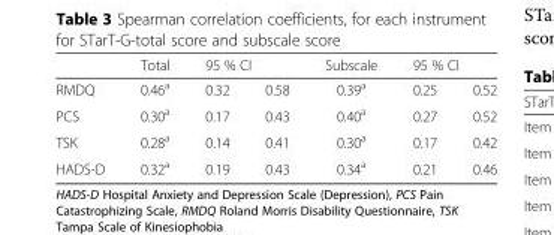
<table><thead><tr><td rowspan="2">RMDQ</td><td rowspan="2">Total 0.46<sup>a</sup></td><td colspan="2">95 % CI</td><td rowspan="2">Subscale 0.39<sup>a</sup></td><td colspan="2">95 % CI</td></tr><tr><td>0.32</td><td>0.58</td><td>0.25</td><td>0.52</td></tr></thead><tbody><tr><td>PCS</td><td>0.30<sup>a</sup></td><td>0.17</td><td>0.43</td><td>0.40<sup>a</sup></td><td>0.27</td><td>0.52</td></tr><tr><td>TSK</td><td>0.28<sup>a</sup></td><td>0.14</td><td>0.41</td><td>0.30<sup>a</sup></td><td>0.17</td><td>0.42</td></tr><tr><td>HADS-D</td><td>0.32<sup>a</sup></td><td>0.19</td><td>0.43</td><td>0.34<sup>a</sup></td><td>0.21</td><td>0.46</td></tr></tbody></table>